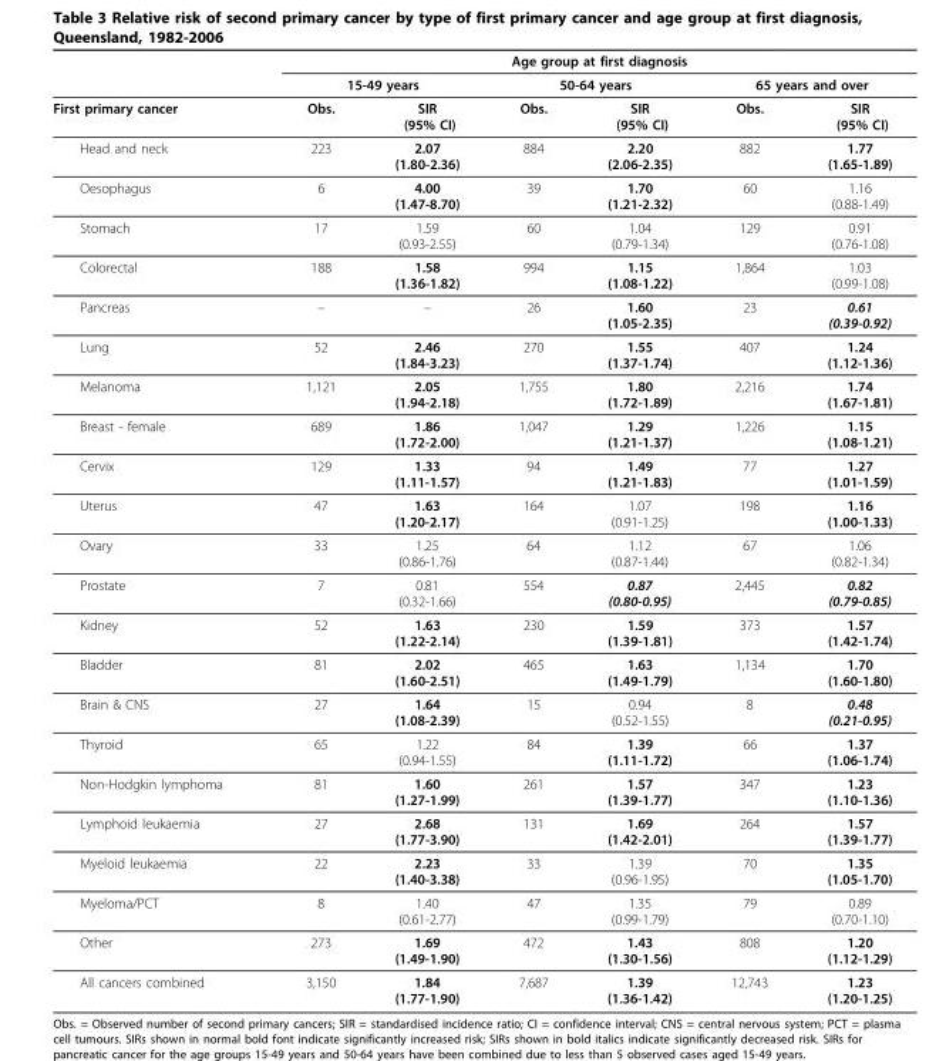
<table><thead><tr><td rowspan="3">First primary cancer</td><td colspan="6">Age group at first diagnosis</td></tr><tr><td colspan="2">15-49 years</td><td colspan="2">50-64 years</td><td colspan="2">65 years and over</td></tr><tr><td>Obs.</td><td>SIR (95% CI)</td><td>Obs.</td><td>SIR (95% CI)</td><td>Obs.</td><td>SIR (95% CI)</td></tr></thead><tbody><tr><td>Head and neck</td><td>223</td><td>2.07 (1.80-2.36)</td><td>884</td><td>2.20 (2.06-2.35)</td><td>882</td><td>1.77 (1.65-1.89)</td></tr><tr><td>Oesophagus</td><td>6</td><td>4.00 (1.47-8.70)</td><td>39</td><td>1.70 (1.21-2.32)</td><td>60</td><td>1.16 (0.88-1.49)</td></tr><tr><td>Stomach</td><td>17</td><td>1.59 (0.93-2.55)</td><td>60</td><td>1.04 (0.79-1.34)</td><td>129</td><td>0.91 (0.76-1.08)</td></tr><tr><td>Colorectal</td><td>188</td><td>1.58 (1.36-1.82)</td><td>994</td><td>1.15 (1.08-1.22)</td><td>1,864</td><td>1.03 (0.99-1.08)</td></tr><tr><td>Pancreas</td><td>–</td><td>–</td><td>26</td><td>1.60 (1.05-2.35)</td><td>23</td><td>0.61 (0.39-0.92)</td></tr><tr><td>Lung</td><td>52</td><td>2.46 (1.84-3.23)</td><td>270</td><td>1.55 (1.37-1.74)</td><td>407</td><td>1.24 (1.12-1.36)</td></tr><tr><td>Melanoma</td><td>1,121</td><td>2.05 (1.94-2.18)</td><td>1,755</td><td>1.80 (1.72-1.89)</td><td>2,216</td><td>1.74 (1.67-1.81)</td></tr><tr><td>Breast - female</td><td>689</td><td>1.86 (1.72-2.00)</td><td>1,047</td><td>1.29 (1.21-1.37)</td><td>1,226</td><td>1.15 (1.08-1.21)</td></tr><tr><td>Cervix</td><td>129</td><td>1.33 (1.11-1.57)</td><td>94</td><td>1.49 (1.21-1.83)</td><td>77</td><td>1.27 (1.01-1.59)</td></tr><tr><td>Uterus</td><td>47</td><td>1.63 (1.20-2.17)</td><td>164</td><td>1.07 (0.91-1.25)</td><td>198</td><td>1.16 (1.00-1.33)</td></tr><tr><td>Ovary</td><td>33</td><td>1.25 (0.86-1.76)</td><td>64</td><td>1.12 (0.87-1.44)</td><td>67</td><td>1.06 (0.82-1.34)</td></tr><tr><td>Prostate</td><td>7</td><td>0.81 (0.32-1.66)</td><td>554</td><td>0.87 (0.80-0.95)</td><td>2,445</td><td>0.82 (0.79-0.85)</td></tr><tr><td>Kidney</td><td>52</td><td>1.63 (1.22-2.14)</td><td>230</td><td>1.59 (1.39-1.81)</td><td>373</td><td>1.57 (1.42-1.74)</td></tr><tr><td>Bladder</td><td>81</td><td>2.02 (1.60-2.51)</td><td>465</td><td>1.63 (1.49-1.79)</td><td>1,134</td><td>1.70 (1.60-1.80)</td></tr><tr><td>Brain &amp; CNS</td><td>27</td><td>1.64 (1.08-2.39)</td><td>15</td><td>0.94 (0.52-1.55)</td><td>8</td><td>0.48 (0.21-0.95)</td></tr><tr><td>Thyroid</td><td>65</td><td>1.22 (0.94-1.55)</td><td>84</td><td>1.39 (1.11-1.72)</td><td>66</td><td>1.37 (1.06-1.74)</td></tr><tr><td>Non-Hodgkin lymphoma</td><td>81</td><td>1.60 (1.27-1.99)</td><td>261</td><td>1.57 (1.39-1.77)</td><td>347</td><td>1.23 (1.10-1.36)</td></tr><tr><td>Lymphoid leukaemia</td><td>27</td><td>2.68 (1.77-3.90)</td><td>131</td><td>1.69 (1.42-2.01)</td><td>264</td><td>1.57 (1.39-1.77)</td></tr><tr><td>Myeloid leukaemia</td><td>22</td><td>2.23 (1.40-3.38)</td><td>33</td><td>1.39 (0.96-1.95)</td><td>70</td><td>1.35 (1.05-1.70)</td></tr><tr><td>Myeloma/PCT</td><td>8</td><td>1.40 (0.61-2.77)</td><td>47</td><td>1.35 (0.99-1.79)</td><td>79</td><td>0.89 (0.70-1.10)</td></tr><tr><td>Other</td><td>273</td><td>1.69 (1.49-1.90)</td><td>472</td><td>1.43 (1.30-1.56)</td><td>808</td><td>1.20 (1.12-1.29)</td></tr><tr><td>All cancers combined</td><td>3,150</td><td>1.84 (1.77-1.90)</td><td>7,687</td><td>1.39 (1.36-1.42)</td><td>12,743</td><td>1.23 (1.20-1.25)</td></tr></tbody></table>